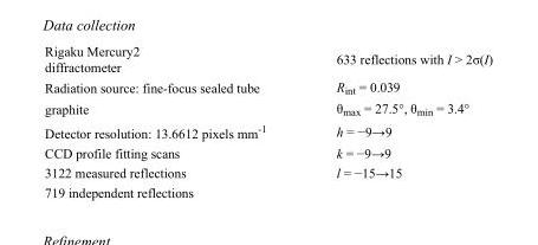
<table><tbody><tr><td>Rigaku Mercury2 diffractometer</td><td>633 reflections with I &gt; 2σ(I)</td></tr><tr><td>Radiation source: fine-focus sealed tube</td><td>R<sub>int</sub> = 0.039</td></tr><tr><td>graphite</td><td>θ<sub>max</sub> = 27.5°, θ<sub>min</sub> = 3.4°</td></tr><tr><td>Detector resolution: 13.6612 pixels mm<sup>-1</sup></td><td>h = −9→9</td></tr><tr><td>CCD profile fitting scans</td><td>k = −9→9</td></tr><tr><td>3122 measured reflections</td><td>l = −15→15</td></tr><tr><td>719 independent reflections</td><td></td></tr></tbody></table>